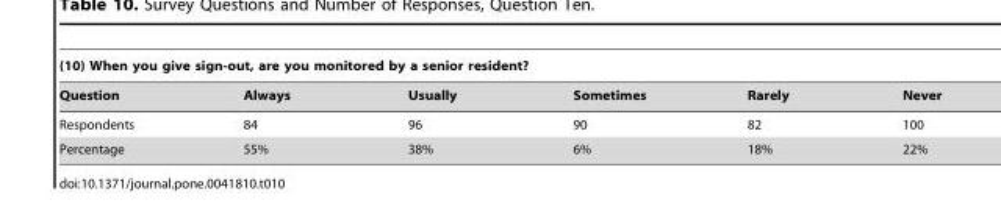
<table><thead><tr><td colspan="6">(10) When you give sign-out, are you monitored by a senior resident?</td></tr><tr><td>Question</td><td>Always</td><td>Usually</td><td>Sometimes</td><td>Rarely</td><td>Never</td></tr></thead><tbody><tr><td>Respondents</td><td>84</td><td>96</td><td>90</td><td>82</td><td>100</td></tr><tr><td>Percentage</td><td>55%</td><td>38%</td><td>6%</td><td>18%</td><td>22%</td></tr></tbody></table>